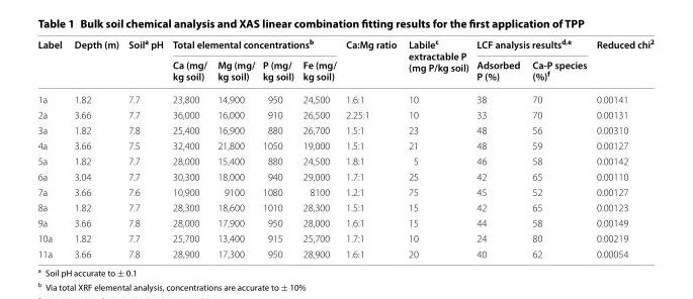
<table><thead><tr><td rowspan="2">Label</td><td rowspan="2">Depth (m)</td><td rowspan="2">Soil<sup>a</sup> pH</td><td colspan="4">Total elemental concentrations<sup>b</sup></td><td rowspan="2">Ca:Mg ratio</td><td rowspan="2">Labile<sup>c</sup> extractable P (mg P/kg soil)</td><td colspan="2">LCF analysis results<sup>d,e</sup></td><td rowspan="2">Reduced chi<sup>2</sup></td></tr><tr><td>Ca (mg/ kg soil)</td><td>Mg (mg/ kg soil)</td><td>P (mg/ kg soil)</td><td>Fe (mg/ kg soil)</td><td>Adsorbed P (%)</td><td>Ca‑P species (%)<sup>f</sup></td></tr></thead><tbody><tr><td>1a</td><td>1.82</td><td>7.7</td><td>23,800</td><td>14,900</td><td>950</td><td>24,500</td><td>1.6:1</td><td>10</td><td>38</td><td>70</td><td>0.00141</td></tr><tr><td>2a</td><td>3.66</td><td>7.7</td><td>36,000</td><td>16,000</td><td>910</td><td>26,500</td><td>2.25:1</td><td>10</td><td>33</td><td>70</td><td>0.00131</td></tr><tr><td>3a</td><td>1.82</td><td>7.8</td><td>25,400</td><td>16,900</td><td>880</td><td>26,700</td><td>1.5:1</td><td>23</td><td>48</td><td>56</td><td>0.00310</td></tr><tr><td>4a</td><td>3.66</td><td>7.5</td><td>32,400</td><td>21,800</td><td>1050</td><td>19,000</td><td>1.5:1</td><td>21</td><td>48</td><td>59</td><td>0.00127</td></tr><tr><td>5a</td><td>1.82</td><td>7.7</td><td>28,000</td><td>15,400</td><td>880</td><td>24,500</td><td>1.8:1</td><td>5</td><td>46</td><td>58</td><td>0.00142</td></tr><tr><td>6a</td><td>3.04</td><td>7.7</td><td>30,300</td><td>18,000</td><td>940</td><td>29,000</td><td>1.7:1</td><td>25</td><td>42</td><td>65</td><td>0.00110</td></tr><tr><td>7a</td><td>3.66</td><td>7.6</td><td>10,900</td><td>9100</td><td>1080</td><td>8100</td><td>1.2:1</td><td>75</td><td>45</td><td>52</td><td>0.00127</td></tr><tr><td>8a</td><td>1.82</td><td>7.7</td><td>28,300</td><td>18,600</td><td>1010</td><td>28,300</td><td>1.5:1</td><td>15</td><td>42</td><td>65</td><td>0.00123</td></tr><tr><td>9a</td><td>3.66</td><td>7.8</td><td>28,000</td><td>17,900</td><td>950</td><td>28,000</td><td>1.6:1</td><td>15</td><td>44</td><td>58</td><td>0.00149</td></tr><tr><td>10a</td><td>1.82</td><td>7.7</td><td>25,700</td><td>13,400</td><td>915</td><td>25,700</td><td>1.7:1</td><td>10</td><td>24</td><td>80</td><td>0.00219</td></tr><tr><td>11a</td><td>3.66</td><td>7.8</td><td>28,900</td><td>17,300</td><td>950</td><td>28,900</td><td>1.6:1</td><td>20</td><td>40</td><td>62</td><td>0.00054</td></tr></tbody></table>